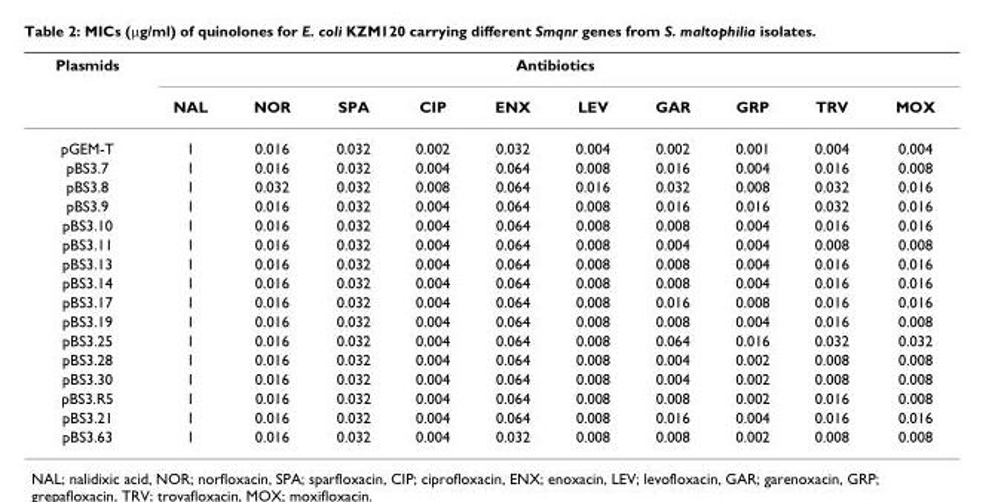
<table><thead><tr><td rowspan="2">Plasmids</td><td colspan="10">Antibiotics</td></tr><tr><td>NAL</td><td>NOR</td><td>SPA</td><td>CIP</td><td>ENX</td><td>LEV</td><td>GAR</td><td>GRP</td><td>TRV</td><td>MOX</td></tr></thead><tbody><tr><td>pGEM-T</td><td>1</td><td>0.016</td><td>0.032</td><td>0.002</td><td>0.032</td><td>0.004</td><td>0.002</td><td>0.001</td><td>0.004</td><td>0.004</td></tr><tr><td>pBS3.7</td><td>1</td><td>0.016</td><td>0.032</td><td>0.004</td><td>0.064</td><td>0.008</td><td>0.016</td><td>0.004</td><td>0.016</td><td>0.008</td></tr><tr><td>pBS3.8</td><td>1</td><td>0.032</td><td>0.032</td><td>0.008</td><td>0.064</td><td>0.016</td><td>0.032</td><td>0.008</td><td>0.032</td><td>0.016</td></tr><tr><td>pBS3.9</td><td>1</td><td>0.016</td><td>0.032</td><td>0.004</td><td>0.064</td><td>0.008</td><td>0.016</td><td>0.016</td><td>0.032</td><td>0.016</td></tr><tr><td>pBS3.10</td><td>1</td><td>0.016</td><td>0.032</td><td>0.004</td><td>0.064</td><td>0.008</td><td>0.008</td><td>0.004</td><td>0.016</td><td>0.016</td></tr><tr><td>pBS3.11</td><td>1</td><td>0.016</td><td>0.032</td><td>0.004</td><td>0.064</td><td>0.008</td><td>0.004</td><td>0.004</td><td>0.008</td><td>0.008</td></tr><tr><td>pBS3.13</td><td>1</td><td>0.016</td><td>0.032</td><td>0.004</td><td>0.064</td><td>0.008</td><td>0.008</td><td>0.004</td><td>0.016</td><td>0.016</td></tr><tr><td>pBS3.14</td><td>1</td><td>0.016</td><td>0.032</td><td>0.004</td><td>0.064</td><td>0.008</td><td>0.008</td><td>0.004</td><td>0.016</td><td>0.016</td></tr><tr><td>pBS3.17</td><td>1</td><td>0.016</td><td>0.032</td><td>0.004</td><td>0.064</td><td>0.008</td><td>0.016</td><td>0.008</td><td>0.016</td><td>0.016</td></tr><tr><td>pBS3.19</td><td>1</td><td>0.016</td><td>0.032</td><td>0.004</td><td>0.064</td><td>0.008</td><td>0.008</td><td>0.004</td><td>0.016</td><td>0.008</td></tr><tr><td>pBS3.25</td><td>1</td><td>0.016</td><td>0.032</td><td>0.004</td><td>0.064</td><td>0.008</td><td>0.064</td><td>0.016</td><td>0.032</td><td>0.032</td></tr><tr><td>pBS3.28</td><td>1</td><td>0.016</td><td>0.032</td><td>0.004</td><td>0.064</td><td>0.008</td><td>0.004</td><td>0.002</td><td>0.008</td><td>0.008</td></tr><tr><td>pBS3.30</td><td>1</td><td>0.016</td><td>0.032</td><td>0.004</td><td>0.064</td><td>0.008</td><td>0.004</td><td>0.002</td><td>0.008</td><td>0.008</td></tr><tr><td>pBS3.R5</td><td>1</td><td>0.016</td><td>0.032</td><td>0.004</td><td>0.064</td><td>0.008</td><td>0.008</td><td>0.002</td><td>0.016</td><td>0.008</td></tr><tr><td>pBS3.21</td><td>1</td><td>0.016</td><td>0.032</td><td>0.004</td><td>0.064</td><td>0.008</td><td>0.016</td><td>0.004</td><td>0.016</td><td>0.016</td></tr><tr><td>pBS3.63</td><td>1</td><td>0.016</td><td>0.032</td><td>0.004</td><td>0.032</td><td>0.008</td><td>0.008</td><td>0.002</td><td>0.008</td><td>0.008</td></tr></tbody></table>